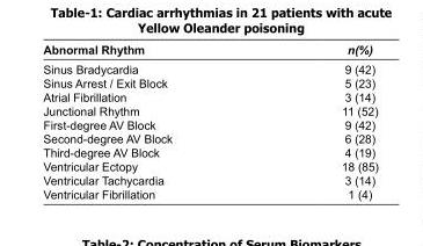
<table><thead><tr><td>Abnormal Rhythm</td><td>n(%)</td></tr></thead><tbody><tr><td>Sinus Bradycardia</td><td>9 (42)</td></tr><tr><td>Sinus Arrest / Exit Block</td><td>5 (23)</td></tr><tr><td>Atrial Fibrillation</td><td>3 (14)</td></tr><tr><td>Junctional Rhythm</td><td>11 (52)</td></tr><tr><td>First-degree AV Block</td><td>9 (42)</td></tr><tr><td>Second-degree AV Block</td><td>6 (28)</td></tr><tr><td>Third-degree AV Block</td><td>4 (19)</td></tr><tr><td>Ventricular Ectopy</td><td>18 (85)</td></tr><tr><td>Ventricular Tachycardia</td><td>3 (14)</td></tr><tr><td>Ventricular Fibrillation</td><td>1 (4)</td></tr></tbody></table>